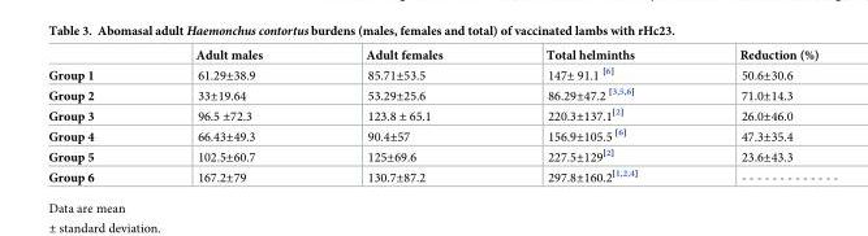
<table><thead><tr><td></td><td>Adult males</td><td>Adult females</td><td>Total helminths</td><td>Reduction (%)</td></tr></thead><tbody><tr><td>Group 1</td><td>61.29±38.9</td><td>85.71±53.5</td><td>147± 91.1 <sup>[6]</sup></td><td>50.6±30.6</td></tr><tr><td>Group 2</td><td>33±19.64</td><td>53.29±25.6</td><td>86.29±47.2 <sup>[3,5,6]</sup></td><td>71.0±14.3</td></tr><tr><td>Group 3</td><td>96.5 ±72.3</td><td>123.8 ± 65.1</td><td>220.3±137.1<sup>[2]</sup></td><td>26.0±46.0</td></tr><tr><td>Group 4</td><td>66.43±49.3</td><td>90.4±57</td><td>156.9±105.5 <sup>[6]</sup></td><td>47.3±35.4</td></tr><tr><td>Group 5</td><td>102.5±60.7</td><td>125±69.6</td><td>227.5±129<sup>[2]</sup></td><td>23.6±43.3</td></tr><tr><td>Group 6</td><td>167.2±79</td><td>130.7±87.2</td><td>297.8±160.2<sup>[1,2,4]</sup></td><td>- - - - - - - - - -</td></tr></tbody></table>